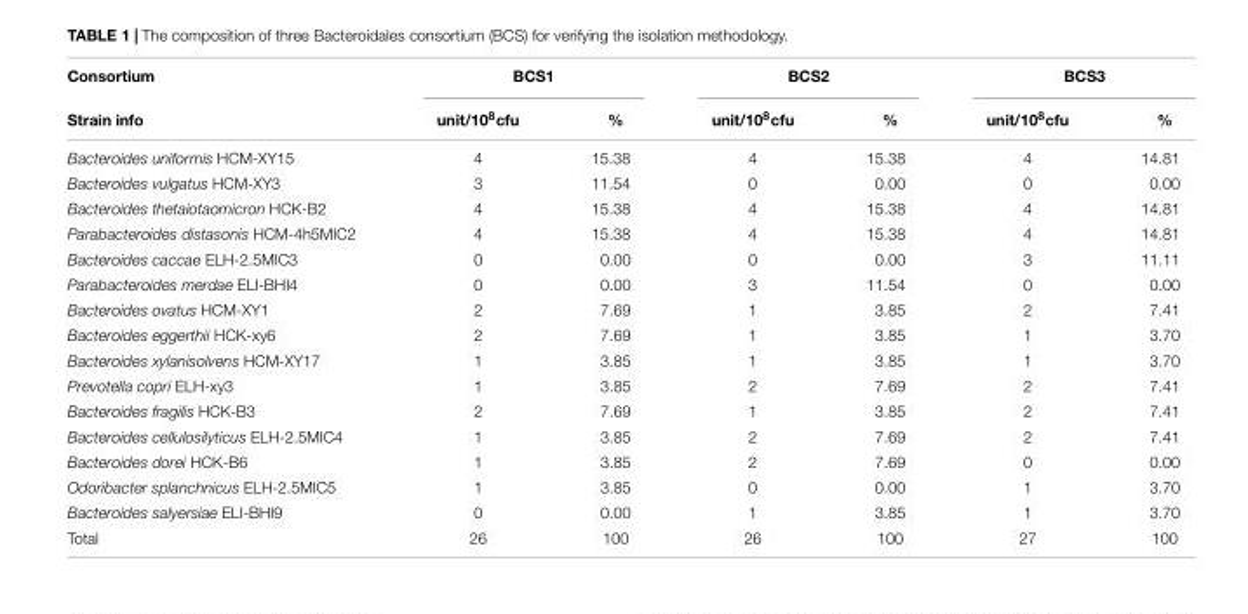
<table><thead><tr><td rowspan="2">Consortium Strain info</td><td colspan="2">BCS1</td><td colspan="2">BCS2</td><td colspan="2">BCS3</td></tr><tr><td>unit/10<sup>8</sup>cfu</td><td>%</td><td>unit/10<sup>8</sup>cfu</td><td>%</td><td>unit/10<sup>8</sup>cfu</td><td>%</td></tr></thead><tbody><tr><td>Bacteroides uniformis HCM-XY15</td><td>4</td><td>15.38</td><td>4</td><td>15.38</td><td>4</td><td>14.81</td></tr><tr><td>Bacteroides vulgatus HCM-XY3</td><td>3</td><td>11.54</td><td>0</td><td>0.00</td><td>0</td><td>0.00</td></tr><tr><td>Bacteroides thetaiotaomicron HCK-B2</td><td>4</td><td>15.38</td><td>4</td><td>15.38</td><td>4</td><td>14.81</td></tr><tr><td>Parabacteroides distasonis HCM-4h5MIC2</td><td>4</td><td>15.38</td><td>4</td><td>15.38</td><td>4</td><td>14.81</td></tr><tr><td>Bacteroides caccae ELH-2.5MIC3</td><td>0</td><td>0.00</td><td>0</td><td>0.00</td><td>3</td><td>11.11</td></tr><tr><td>Parabacteroides merdae ELI-BHI4</td><td>0</td><td>0.00</td><td>3</td><td>11.54</td><td>0</td><td>0.00</td></tr><tr><td>Bacteroides ovatus HCM-XY1</td><td>2</td><td>7.69</td><td>1</td><td>3.85</td><td>2</td><td>7.41</td></tr><tr><td>Bacteroides eggerthii HCK-xy6</td><td>2</td><td>7.69</td><td>1</td><td>3.85</td><td>1</td><td>3.70</td></tr><tr><td>Bacteroides xylanisolvens HCM-XY17</td><td>1</td><td>3.85</td><td>1</td><td>3.85</td><td>1</td><td>3.70</td></tr><tr><td>Prevotella copri ELH-xy3</td><td>1</td><td>3.85</td><td>2</td><td>7.69</td><td>2</td><td>7.41</td></tr><tr><td>Bacteroides fragilis HCK-B3</td><td>2</td><td>7.69</td><td>1</td><td>3.85</td><td>2</td><td>7.41</td></tr><tr><td>Bacteroides cellulosilyticus ELH-2.5MIC4</td><td>1</td><td>3.85</td><td>2</td><td>7.69</td><td>2</td><td>7.41</td></tr><tr><td>Bacteroides dorei HCK-B6</td><td>1</td><td>3.85</td><td>2</td><td>7.69</td><td>0</td><td>0.00</td></tr><tr><td>Odoribacter splanchnicus ELH-2.5MIC5</td><td>1</td><td>3.85</td><td>0</td><td>0.00</td><td>1</td><td>3.70</td></tr><tr><td>Bacteroides salyersiae ELI-BHI9</td><td>0</td><td>0.00</td><td>1</td><td>3.85</td><td>1</td><td>3.70</td></tr><tr><td>Total</td><td>26</td><td>100</td><td>26</td><td>100</td><td>27</td><td>100</td></tr></tbody></table>